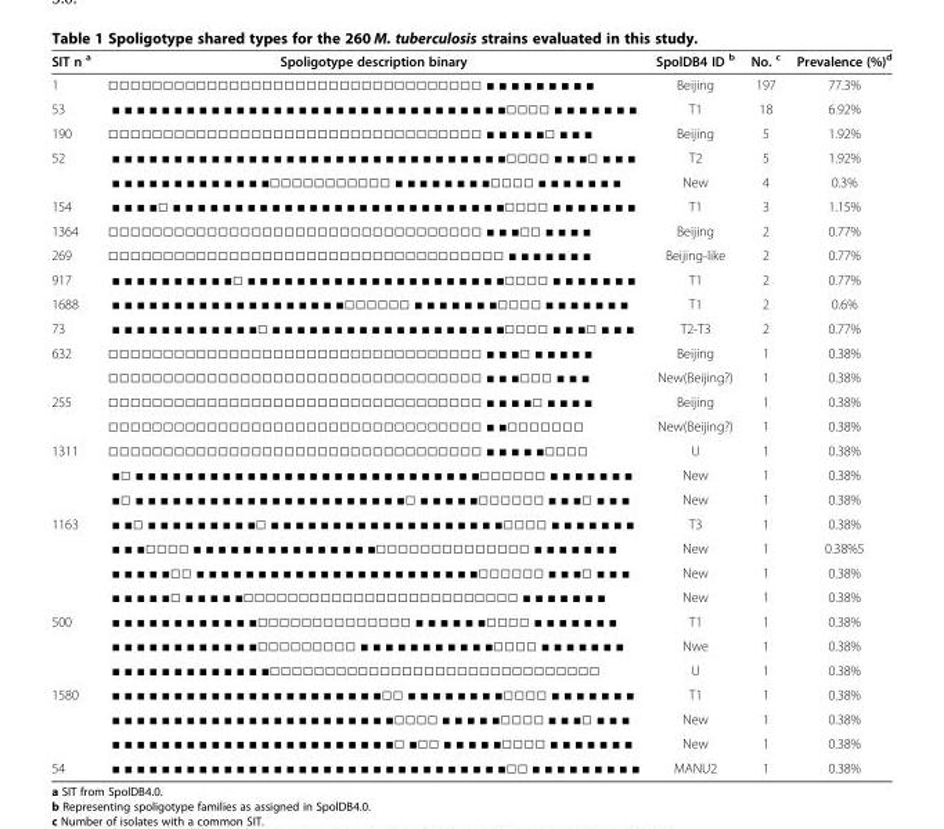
<table><thead><tr><td>SIT n <sup>a</sup></td><td>Spoligotype description binary</td><td>SpolDB4 ID <sup>b</sup></td><td>No. <sup>c</sup></td><td>Prevalence (%)<sup>d</sup></td></tr></thead><tbody><tr><td>1</td><td>□□□□□□□□□□□□□□□□□□□□□□□□□□□□□□□□□□ ■ ■ ■ ■ ■ ■ ■ ■ ■</td><td>Beijing</td><td>197</td><td>77.3%</td></tr><tr><td>53</td><td>■ ■ ■ ■ ■ ■ ■ ■ ■ ■ ■ ■ ■ ■ ■ ■ ■ ■ ■ ■ ■ ■ ■ ■ ■ ■ ■ ■ ■ ■ ■ ■□□□□ ■ ■ ■ ■ ■ ■ ■</td><td>T1</td><td>18</td><td>6.92%</td></tr><tr><td>190</td><td>□□□□□□□□□□□□□□□□□□□□□□□□□□□□□□□□□□ ■ ■ ■ ■ ■□ ■ ■ ■</td><td>Beijing</td><td>5</td><td>1.92%</td></tr><tr><td rowspan="2">52</td><td>■ ■ ■ ■ ■ ■ ■ ■ ■ ■ ■ ■ ■ ■ ■ ■ ■ ■ ■ ■ ■ ■ ■ ■ ■ ■ ■ ■ ■ ■ ■ ■□□□□ ■ ■ ■□ ■ ■ ■</td><td>T2</td><td>5</td><td>1.92%</td></tr><tr><td>■ ■ ■ ■ ■ ■ ■ ■ ■ ■ ■ ■ ■□□□□□□□□□□□ ■ ■ ■ ■ ■ ■ ■ ■□□□□ ■ ■ ■ ■ ■ ■ ■</td><td>New</td><td>4</td><td>0.3%</td></tr><tr><td>154</td><td>■ ■ ■ ■□ ■ ■ ■ ■ ■ ■ ■ ■ ■ ■ ■ ■ ■ ■ ■ ■ ■ ■ ■ ■ ■ ■ ■ ■ ■ ■ ■□□□□ ■ ■ ■ ■ ■ ■ ■</td><td>T1</td><td>3</td><td>1.15%</td></tr><tr><td>1364</td><td>□□□□□□□□□□□□□□□□□□□□□□□□□□□□□□□□□□ ■ ■ ■□□ ■ ■ ■ ■</td><td>Beijing</td><td>2</td><td>0.77%</td></tr><tr><td>269</td><td>□□□□□□□□□□□□□□□□□□□□□□□□□□□□□□□□□□□□ ■ ■ ■ ■ ■ ■ ■</td><td>Beijing-like</td><td>2</td><td>0.77%</td></tr><tr><td>917</td><td>■ ■ ■ ■ ■ ■ ■ ■ ■ ■□ ■ ■ ■ ■ ■ ■ ■ ■ ■ ■ ■ ■ ■ ■ ■ ■ ■ ■ ■ ■ ■□□□□ ■ ■ ■ ■ ■ ■ ■</td><td>T1</td><td>2</td><td>0.77%</td></tr><tr><td>1688</td><td>■ ■ ■ ■ ■ ■ ■ ■ ■ ■ ■ ■ ■ ■ ■ ■ ■ ■ ■□□□□□□ ■ ■ ■ ■ ■ ■ ■□□□□ ■ ■ ■ ■ ■ ■ ■</td><td>T1</td><td>2</td><td>0.6%</td></tr><tr><td>73</td><td>■ ■ ■ ■ ■ ■ ■ ■ ■ ■ ■ ■□ ■ ■ ■ ■ ■ ■ ■ ■ ■ ■ ■ ■ ■ ■ ■ ■ ■ ■ ■□□□□ ■ ■ ■□ ■ ■ ■</td><td>T2-T3</td><td>2</td><td>0.77%</td></tr><tr><td rowspan="2">632</td><td>□□□□□□□□□□□□□□□□□□□□□□□□□□□□□□□□□□ ■ ■ ■□ ■ ■ ■ ■ ■</td><td>Beijing</td><td>1</td><td>0.38%</td></tr><tr><td>□□□□□□□□□□□□□□□□□□□□□□□□□□□□□□□□□□ ■ ■ ■□□□ ■ ■ ■</td><td>New(Beijing?)</td><td>1</td><td>0.38%</td></tr><tr><td rowspan="2">255</td><td>□□□□□□□□□□□□□□□□□□□□□□□□□□□□□□□□□□ ■ ■ ■ ■□ ■ ■ ■ ■</td><td>Beijing</td><td>1</td><td>0.38%</td></tr><tr><td>□□□□□□□□□□□□□□□□□□□□□□□□□□□□□□□□□□ ■ ■□□□□□□□</td><td>New(Beijing?)</td><td>1</td><td>0.38%</td></tr><tr><td rowspan="3">1311</td><td>□□□□□□□□□□□□□□□□□□□□□□□□□□□□□□□□□□ ■ ■ ■ ■ ■□□□□</td><td>U</td><td>1</td><td>0.38%</td></tr><tr><td>■□ ■ ■ ■ ■ ■ ■ ■ ■ ■ ■ ■ ■ ■ ■ ■ ■ ■ ■ ■ ■ ■ ■ ■ ■ ■ ■ ■ ■□□□□□□ ■ ■ ■ ■ ■ ■ ■</td><td>New</td><td>1</td><td>0.38%</td></tr><tr><td>■□ ■ ■ ■ ■ ■ ■ ■ ■ ■ ■ ■ ■ ■ ■ ■ ■ ■ ■ ■ ■ ■ ■□ ■ ■ ■ ■ ■□□□□□□ ■ ■ ■□ ■ ■ ■</td><td>New</td><td>1</td><td>0.38%</td></tr><tr><td rowspan="4">1163</td><td>■ ■□ ■ ■ ■ ■ ■ ■ ■ ■ ■□ ■ ■ ■ ■ ■ ■ ■ ■ ■ ■ ■ ■ ■ ■ ■ ■ ■ ■ ■□□□□ ■ ■ ■ ■ ■ ■ ■</td><td>T3</td><td>1</td><td>0.38%</td></tr><tr><td>■ ■ ■□□□□ ■ ■ ■ ■ ■ ■ ■ ■ ■ ■ ■ ■ ■ ■ ■□□□□□□□□□□□□□□ ■ ■ ■ ■ ■ ■ ■</td><td>New</td><td>1</td><td>0.38%5</td></tr><tr><td>■ ■ ■ ■ ■□□ ■ ■ ■ ■ ■ ■ ■ ■ ■ ■ ■ ■ ■ ■ ■ ■ ■ ■ ■ ■ ■ ■ ■□□□□□□ ■ ■ ■□ ■ ■ ■</td><td>New</td><td>1</td><td>0.38%</td></tr><tr><td>■ ■ ■ ■ ■□ ■ ■ ■ ■ ■□□□□□□□□□□□□□□□□□□□□□□□□□ ■ ■ ■ ■ ■ ■ ■</td><td>New</td><td>1</td><td>0.38%</td></tr><tr><td rowspan="3">500</td><td>■ ■ ■ ■ ■ ■ ■ ■ ■ ■ ■ ■□□□□□□□□□□□□□□ ■ ■ ■ ■ ■ ■□□□□ ■ ■ ■ ■ ■ ■ ■</td><td>T1</td><td>1</td><td>0.38%</td></tr><tr><td>■ ■ ■ ■ ■ ■ ■ ■ ■ ■ ■ ■□□□□□□□□□ ■ ■ ■ ■ ■ ■ ■ ■ ■ ■ ■□□□□ ■ ■ ■ ■ ■ ■ ■</td><td>Nwe</td><td>1</td><td>0.38%</td></tr><tr><td>■ ■ ■ ■ ■ ■ ■ ■ ■ ■ ■ ■ ■□□□□□□□□□□□□□□□□□□□□□□□□□□□□□□</td><td>U</td><td>1</td><td>0.38%</td></tr><tr><td rowspan="3">1580</td><td>■ ■ ■ ■ ■ ■ ■ ■ ■ ■ ■ ■ ■ ■ ■ ■ ■ ■ ■ ■ ■ ■□□ ■ ■ ■ ■ ■ ■ ■ ■□□□□ ■ ■ ■ ■ ■ ■ ■</td><td>T1</td><td>1</td><td>0.38%</td></tr><tr><td>■ ■ ■ ■ ■ ■ ■ ■ ■ ■ ■ ■ ■ ■ ■ ■ ■ ■ ■ ■ ■ ■ ■□□□□ ■ ■ ■ ■ ■□□□□ ■ ■ ■□ ■ ■ ■</td><td>New</td><td>1</td><td>0.38%</td></tr><tr><td>■ ■ ■ ■ ■ ■ ■ ■ ■ ■ ■ ■ ■ ■ ■ ■ ■ ■ ■ ■ ■ ■ ■□ ■□□ ■ ■ ■ ■ ■□□□□ ■ ■ ■ ■ ■ ■ ■</td><td>New</td><td>1</td><td>0.38%</td></tr><tr><td>54</td><td>■ ■ ■ ■ ■ ■ ■ ■ ■ ■ ■ ■ ■ ■ ■ ■ ■ ■ ■ ■ ■ ■ ■ ■ ■ ■ ■ ■ ■ ■ ■ ■□□ ■ ■ ■ ■ ■ ■ ■ ■ ■</td><td>MANU2</td><td>1</td><td>0.38%</td></tr></tbody></table>